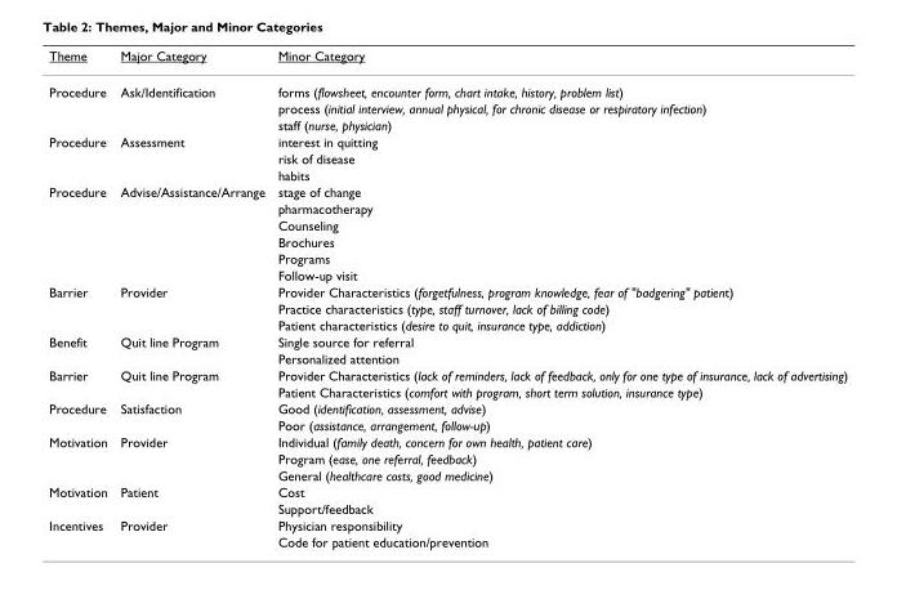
<table><thead><tr><td>Theme</td><td>Major Category</td><td>Minor Category</td></tr></thead><tbody><tr><td rowspan="3">Procedure</td><td>Ask/Identification</td><td>forms (flowsheet, encounter form, chart intake, history, problem list)</td></tr><tr><td></td><td>process (initial interview, annual physical, for chronic disease or respiratory infection)</td></tr><tr><td></td><td>staff (nurse, physician)</td></tr><tr><td rowspan="3">Procedure</td><td>Assessment</td><td>interest in quitting</td></tr><tr><td></td><td>risk of disease</td></tr><tr><td></td><td>habits</td></tr><tr><td rowspan="6">Procedure</td><td>Advise/Assistance/Arrange</td><td>stage of change</td></tr><tr><td></td><td>pharmacotherapy</td></tr><tr><td></td><td>Counseling</td></tr><tr><td></td><td>Brochures</td></tr><tr><td></td><td>Programs</td></tr><tr><td></td><td>Follow-up visit</td></tr><tr><td rowspan="3">Barrier</td><td>Provider</td><td>Provider Characteristics (forgetfulness, program knowledge, fear of &quot;badgering&quot; patient)</td></tr><tr><td></td><td>Practice characteristics (type, staff turnover, lack of billing code)</td></tr><tr><td></td><td>Patient characteristics (desire to quit, insurance type, addiction)</td></tr><tr><td rowspan="2">Benefit</td><td>Quit line Program</td><td>Single source for referral</td></tr><tr><td></td><td>Personalized attention</td></tr><tr><td rowspan="2">Barrier</td><td>Quit line Program</td><td>Provider Characteristics (lack of reminders, lack of feedback, only for one type of insurance, lack of advertising)</td></tr><tr><td></td><td>Patient Characteristics (comfort with program, short term solution, insurance type)</td></tr><tr><td rowspan="2">Procedure</td><td>Satisfaction</td><td>Good (identification, assessment, advise)</td></tr><tr><td></td><td>Poor (assistance, arrangement, follow-up)</td></tr><tr><td rowspan="3">Motivation</td><td>Provider</td><td>Individual (family death, concern for own health, patient care)</td></tr><tr><td></td><td>Program (ease, one referral, feedback)</td></tr><tr><td></td><td>General (healthcare costs, good medicine)</td></tr><tr><td rowspan="2">Motivation</td><td>Patient</td><td>Cost</td></tr><tr><td></td><td>Support/feedback</td></tr><tr><td rowspan="2">Incentives</td><td>Provider</td><td>Physician responsibility</td></tr><tr><td></td><td>Code for patient education/prevention</td></tr></tbody></table>